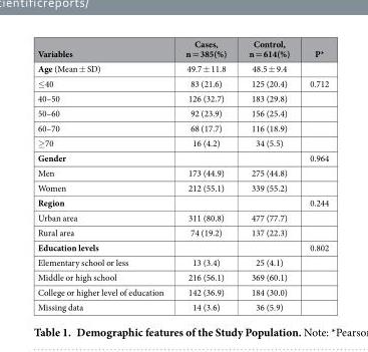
<table><thead><tr><td>Variables</td><td>Cases, n = 385(%)</td><td>Control, n = 614(%)</td><td>P*</td></tr></thead><tbody><tr><td>Age (Mean ± SD)</td><td>49.7 ± 11.8</td><td>48.5 ± 9.4</td><td></td></tr><tr><td>≤ 40</td><td>83 (21.6)</td><td>125 (20.4)</td><td>0.712</td></tr><tr><td>40–50</td><td>126 (32.7)</td><td>183 (29.8)</td><td></td></tr><tr><td>50–60</td><td>92 (23.9)</td><td>156 (25.4)</td><td></td></tr><tr><td>60–70</td><td>68 (17.7)</td><td>116 (18.9)</td><td></td></tr><tr><td>≥ 70</td><td>16 (4.2)</td><td>34 (5.5)</td><td></td></tr><tr><td>Gender</td><td></td><td></td><td>0.964</td></tr><tr><td>Men</td><td>173 (44.9)</td><td>275 (44.8)</td><td></td></tr><tr><td>Women</td><td>212 (55.1)</td><td>339 (55.2)</td><td></td></tr><tr><td>Region</td><td></td><td></td><td>0.244</td></tr><tr><td>Urban area</td><td>311 (80.8)</td><td>477 (77.7)</td><td></td></tr><tr><td>Rural area</td><td>74 (19.2)</td><td>137 (22.3)</td><td></td></tr><tr><td>Education levels</td><td></td><td></td><td>0.802</td></tr><tr><td>Elementary school or less</td><td>13 (3.4)</td><td>25 (4.1)</td><td></td></tr><tr><td>Middle or high school</td><td>216 (56.1)</td><td>369 (60.1)</td><td></td></tr><tr><td>College or higher level of education</td><td>142 (36.9)</td><td>184 (30.0)</td><td></td></tr><tr><td>Missing data</td><td>14 (3.6)</td><td>36 (5.9)</td><td></td></tr></tbody></table>